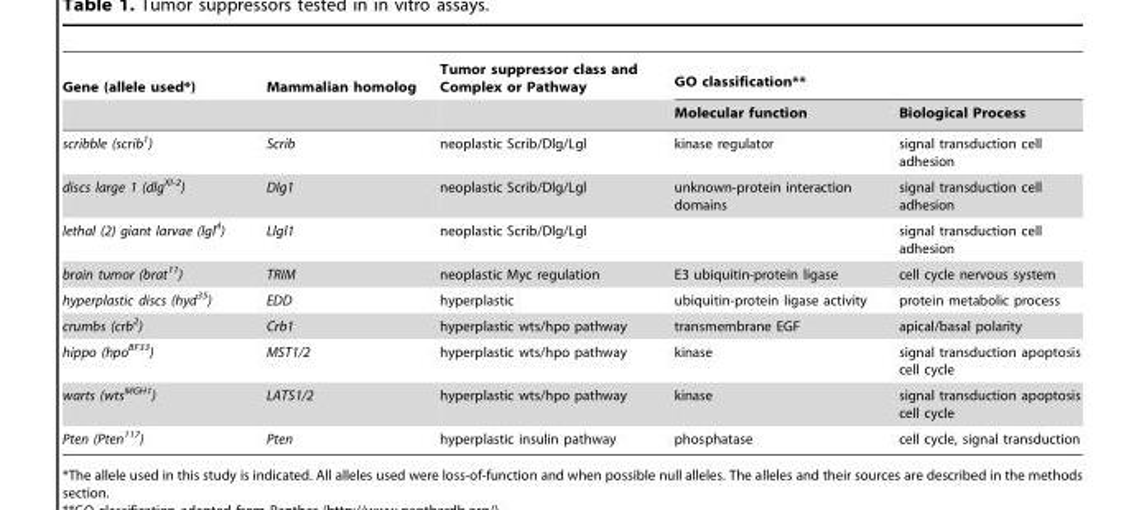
<table><thead><tr><td rowspan="2">Gene (allele used*)</td><td rowspan="2">Mammalian homolog</td><td rowspan="2">Tumor suppressor class and Complex or Pathway</td><td colspan="2">GO classification**</td></tr><tr><td>Molecular function</td><td>Biological Process</td></tr></thead><tbody><tr><td>scribble (scrib<sup>1</sup>)</td><td>Scrib</td><td>neoplastic Scrib/Dlg/Lgl</td><td>kinase regulator</td><td>signal transduction cell adhesion</td></tr><tr><td>discs large 1 (dlg<sup>XI-2</sup>)</td><td>Dlg1</td><td>neoplastic Scrib/Dlg/Lgl</td><td>unknown-protein interaction domains</td><td>signal transduction cell adhesion</td></tr><tr><td>lethal (2) giant larvae (lgl<sup>4</sup>)</td><td>Llgl1</td><td>neoplastic Scrib/Dlg/Lgl</td><td></td><td>signal transduction cell adhesion</td></tr><tr><td>brain tumor (brat<sup>11</sup>)</td><td>TRIM</td><td>neoplastic Myc regulation</td><td>E3 ubiquitin-protein ligase</td><td>cell cycle nervous system</td></tr><tr><td>hyperplastic discs (hyd<sup>35</sup>)</td><td>EDD</td><td>hyperplastic</td><td>ubiquitin-protein ligase activity</td><td>protein metabolic process</td></tr><tr><td>crumbs (crb<sup>2</sup>)</td><td>Crb1</td><td>hyperplastic wts/hpo pathway</td><td>transmembrane EGF</td><td>apical/basal polarity</td></tr><tr><td>hippo (hpo<sup>BF33</sup>)</td><td>MST1/2</td><td>hyperplastic wts/hpo pathway</td><td>kinase</td><td>signal transduction apoptosis cell cycle</td></tr><tr><td>warts (wts<sup>MGH1</sup>)</td><td>LATS1/2</td><td>hyperplastic wts/hpo pathway</td><td>kinase</td><td>signal transduction apoptosis cell cycle</td></tr><tr><td>Pten (Pten<sup>117</sup>)</td><td>Pten</td><td>hyperplastic insulin pathway</td><td>phosphatase</td><td>cell cycle, signal transduction</td></tr></tbody></table>